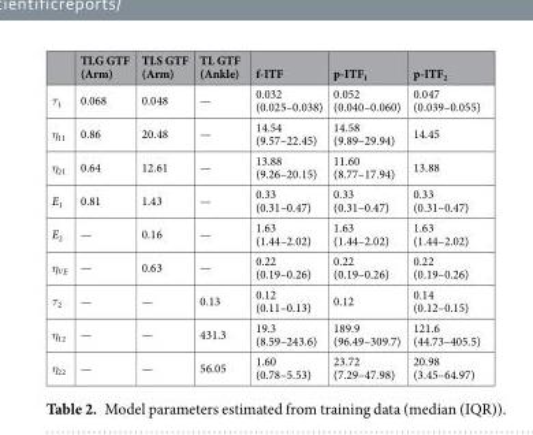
<table><thead><tr><td></td><td>TLG GTF (Arm)</td><td>TLS GTF (Arm)</td><td>TL GTF (Ankle)</td><td>f-ITF</td><td>p-ITF<sub>1</sub></td><td>p-ITF<sub>2</sub></td></tr></thead><tbody><tr><td>τ<sub>1</sub></td><td>0.068</td><td>0.048</td><td>—</td><td>0.032 (0.025–0.038)</td><td>0.052 (0.040–0.060)</td><td>0.047 (0.039–0.055)</td></tr><tr><td>η<sub>11</sub></td><td>0.86</td><td>20.48</td><td>—</td><td>14.54 (9.57–22.45)</td><td>14.58 (9.89–29.94)</td><td>14.45</td></tr><tr><td>η<sub>21</sub></td><td>0.64</td><td>12.61</td><td>—</td><td>13.88 (9.26–20.15)</td><td>11.60 (8.77–17.94)</td><td>13.88</td></tr><tr><td>E<sub>1</sub></td><td>0.81</td><td>1.43</td><td>—</td><td>0.33 (0.31–0.47)</td><td>0.33 (0.31–0.47)</td><td>0.33 (0.31–0.47)</td></tr><tr><td>E<sub>2</sub></td><td>—</td><td>0.16</td><td>—</td><td>1.63 (1.44–2.02)</td><td>1.63 (1.44–2.02)</td><td>1.63 (1.44–2.02)</td></tr><tr><td>η<sub>VE</sub></td><td>—</td><td>0.63</td><td>—</td><td>0.22 (0.19–0.26)</td><td>0.22 (0.19–0.26)</td><td>0.22 (0.19–0.26)</td></tr><tr><td>τ<sub>2</sub></td><td>—</td><td>—</td><td>0.13</td><td>0.12 (0.11–0.13)</td><td>0.12</td><td>0.14 (0.12–0.15)</td></tr><tr><td>η<sub>12</sub></td><td>—</td><td>—</td><td>431.3</td><td>19.3 (8.59–243.6)</td><td>189.9 (96.49–309.7)</td><td>121.6 (44.73–405.5)</td></tr><tr><td>η<sub>22</sub></td><td>—</td><td>—</td><td>56.05</td><td>1.60 (0.78–5.53)</td><td>23.72 (7.29–47.98)</td><td>20.98 (3.45–64.97)</td></tr></tbody></table>